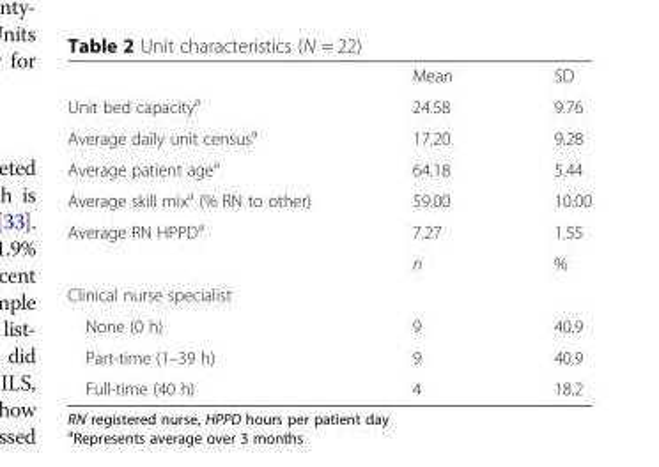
<table><thead><tr><td></td><td>Mean</td><td>SD</td></tr></thead><tbody><tr><td>Unit bed capacity<sup>a</sup></td><td>24.58</td><td>9.76</td></tr><tr><td>Average daily unit census<sup>a</sup></td><td>17.20</td><td>9.28</td></tr><tr><td>Average patient age<sup>a</sup></td><td>64.18</td><td>5.44</td></tr><tr><td>Average skill mix<sup>a</sup> (% RN to other)</td><td>59.00</td><td>10.00</td></tr><tr><td rowspan="2">Average RN HPPD<sup>a</sup></td><td>7.27</td><td>1.55</td></tr><tr><td>n</td><td>%</td></tr><tr><td colspan="3">Clinical nurse specialist</td></tr><tr><td>None (0 h)</td><td>9</td><td>40.9</td></tr><tr><td>Part-time (1–39 h)</td><td>9</td><td>40.9</td></tr><tr><td>Full-time (40 h)</td><td>4</td><td>18.2</td></tr></tbody></table>